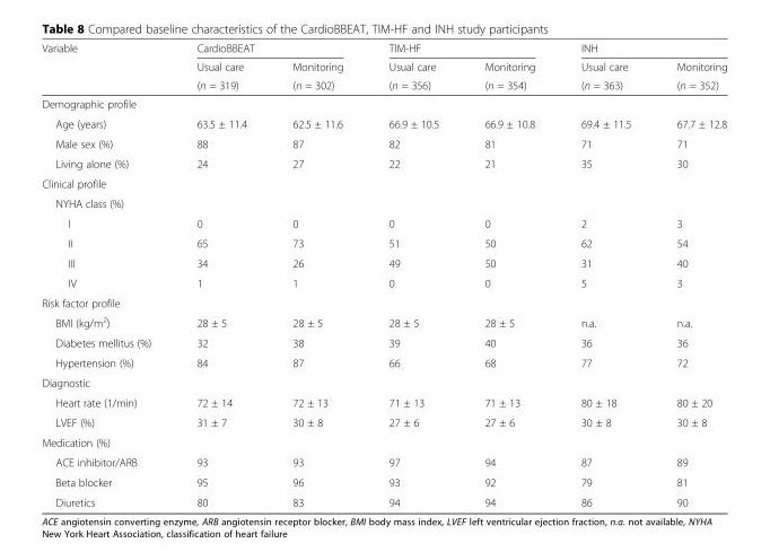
<table><thead><tr><td rowspan="3">Variable</td><td colspan="2">CardioBBEAT</td><td colspan="2">TIM-HF</td><td colspan="2">INH</td></tr><tr><td rowspan="2">Usual care (n = 319)</td><td rowspan="2">Monitoring (n = 302)</td><td rowspan="2">Usual care (n = 356)</td><td rowspan="2">Monitoring (n = 354)</td><td rowspan="2">Usual care (n = 363)</td><td rowspan="2">Monitoring (n = 352)</td></tr><tr></tr></thead><tbody><tr><td colspan="7">Demographic profile</td></tr><tr><td>Age (years)</td><td>63.5 ± 11.4</td><td>62.5 ± 11.6</td><td>66.9 ± 10.5</td><td>66.9 ± 10.8</td><td>69.4 ± 11.5</td><td>67.7 ± 12.8</td></tr><tr><td>Male sex (%)</td><td>88</td><td>87</td><td>82</td><td>81</td><td>71</td><td>71</td></tr><tr><td>Living alone (%)</td><td>24</td><td>27</td><td>22</td><td>21</td><td>35</td><td>30</td></tr><tr><td colspan="7">Clinical profile</td></tr><tr><td colspan="7">NYHA class (%)</td></tr><tr><td>I</td><td>0</td><td>0</td><td>0</td><td>0</td><td>2</td><td>3</td></tr><tr><td>II</td><td>65</td><td>73</td><td>51</td><td>50</td><td>62</td><td>54</td></tr><tr><td>III</td><td>34</td><td>26</td><td>49</td><td>50</td><td>31</td><td>40</td></tr><tr><td>IV</td><td>1</td><td>1</td><td>0</td><td>0</td><td>5</td><td>3</td></tr><tr><td colspan="7">Risk factor profile</td></tr><tr><td>BMI (kg/m<sup>2</sup>)</td><td>28 ± 5</td><td>28 ± 5</td><td>28 ± 5</td><td>28 ± 5</td><td>n.a.</td><td>n.a.</td></tr><tr><td>Diabetes mellitus (%)</td><td>32</td><td>38</td><td>39</td><td>40</td><td>36</td><td>36</td></tr><tr><td>Hypertension (%)</td><td>84</td><td>87</td><td>66</td><td>68</td><td>77</td><td>72</td></tr><tr><td colspan="7">Diagnostic</td></tr><tr><td>Heart rate (1/min)</td><td>72 ± 14</td><td>72 ± 13</td><td>71 ± 13</td><td>71 ± 13</td><td>80 ± 18</td><td>80 ± 20</td></tr><tr><td>LVEF (%)</td><td>31 ± 7</td><td>30 ± 8</td><td>27 ± 6</td><td>27 ± 6</td><td>30 ± 8</td><td>30 ± 8</td></tr><tr><td colspan="7">Medication (%)</td></tr><tr><td>ACE inhibitor/ARB</td><td>93</td><td>93</td><td>97</td><td>94</td><td>87</td><td>89</td></tr><tr><td>Beta blocker</td><td>95</td><td>96</td><td>93</td><td>92</td><td>79</td><td>81</td></tr><tr><td>Diuretics</td><td>80</td><td>83</td><td>94</td><td>94</td><td>86</td><td>90</td></tr></tbody></table>